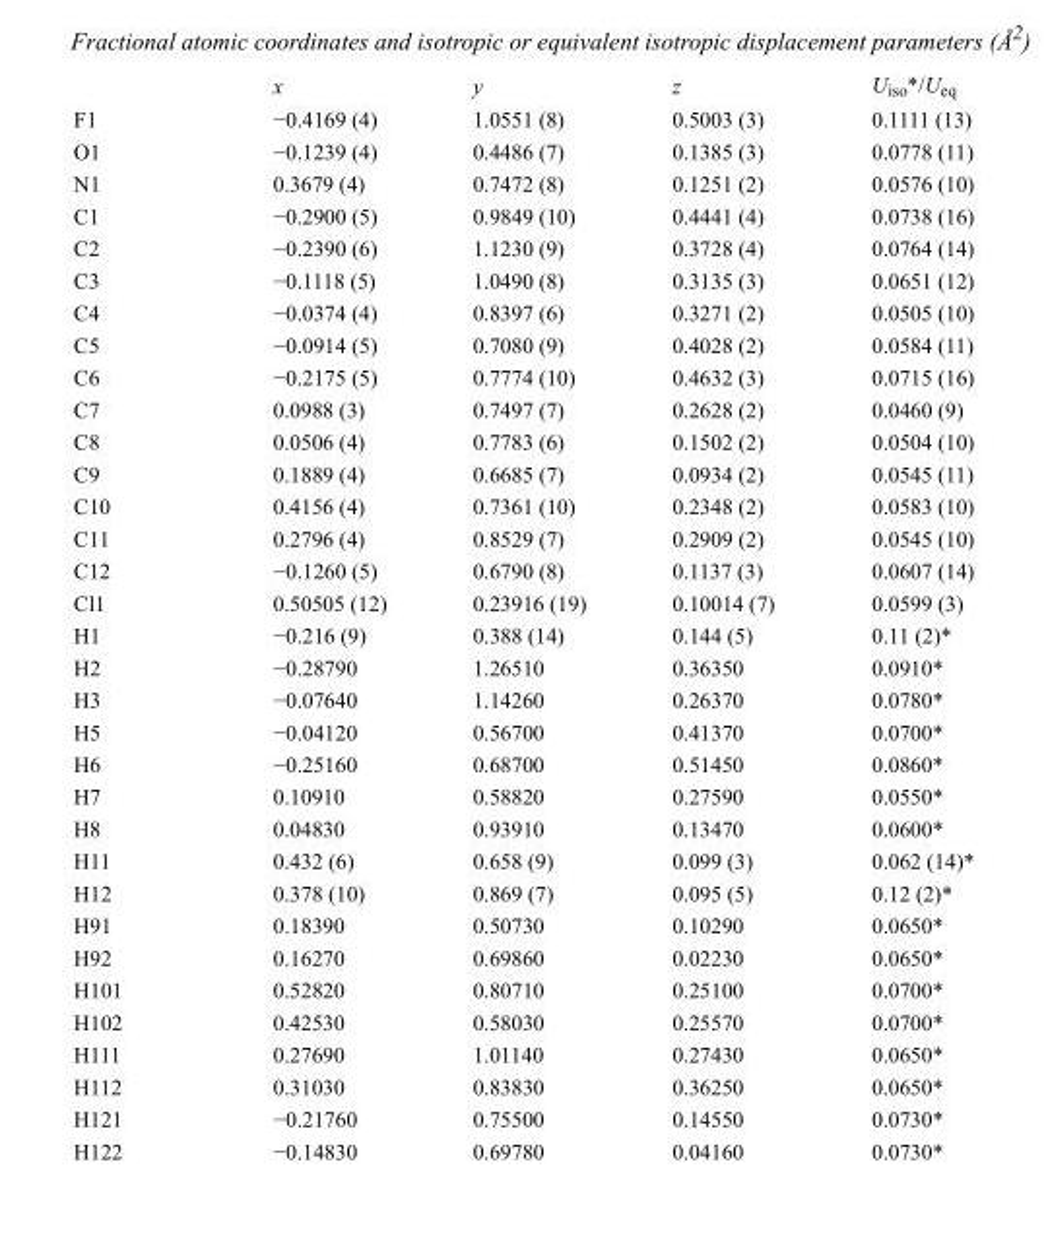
<table><thead><tr><td></td><td>x</td><td>y</td><td>z</td><td>U<sub>iso</sub>*/U<sub>eq</sub></td></tr></thead><tbody><tr><td>F1</td><td>−0.4169 (4)</td><td>1.0551 (8)</td><td>0.5003 (3)</td><td>0.1111 (13)</td></tr><tr><td>O1</td><td>−0.1239 (4)</td><td>0.4486 (7)</td><td>0.1385 (3)</td><td>0.0778 (11)</td></tr><tr><td>N1</td><td>0.3679 (4)</td><td>0.7472 (8)</td><td>0.1251 (2)</td><td>0.0576 (10)</td></tr><tr><td>C1</td><td>−0.2900 (5)</td><td>0.9849 (10)</td><td>0.4441 (4)</td><td>0.0738 (16)</td></tr><tr><td>C2</td><td>−0.2390 (6)</td><td>1.1230 (9)</td><td>0.3728 (4)</td><td>0.0764 (14)</td></tr><tr><td>C3</td><td>−0.1118 (5)</td><td>1.0490 (8)</td><td>0.3135 (3)</td><td>0.0651 (12)</td></tr><tr><td>C4</td><td>−0.0374 (4)</td><td>0.8397 (6)</td><td>0.3271 (2)</td><td>0.0505 (10)</td></tr><tr><td>C5</td><td>−0.0914 (5)</td><td>0.7080 (9)</td><td>0.4028 (2)</td><td>0.0584 (11)</td></tr><tr><td>C6</td><td>−0.2175 (5)</td><td>0.7774 (10)</td><td>0.4632 (3)</td><td>0.0715 (16)</td></tr><tr><td>C7</td><td>0.0988 (3)</td><td>0.7497 (7)</td><td>0.2628 (2)</td><td>0.0460 (9)</td></tr><tr><td>C8</td><td>0.0506 (4)</td><td>0.7783 (6)</td><td>0.1502 (2)</td><td>0.0504 (10)</td></tr><tr><td>C9</td><td>0.1889 (4)</td><td>0.6685 (7)</td><td>0.0934 (2)</td><td>0.0545 (11)</td></tr><tr><td>C10</td><td>0.4156 (4)</td><td>0.7361 (10)</td><td>0.2348 (2)</td><td>0.0583 (10)</td></tr><tr><td>C11</td><td>0.2796 (4)</td><td>0.8529 (7)</td><td>0.2909 (2)</td><td>0.0545 (10)</td></tr><tr><td>C12</td><td>−0.1260 (5)</td><td>0.6790 (8)</td><td>0.1137 (3)</td><td>0.0607 (14)</td></tr><tr><td>Cl1</td><td>0.50505 (12)</td><td>0.23916 (19)</td><td>0.10014 (7)</td><td>0.0599 (3)</td></tr><tr><td>H1</td><td>−0.216 (9)</td><td>0.388 (14)</td><td>0.144 (5)</td><td>0.11 (2)*</td></tr><tr><td>H2</td><td>−0.28790</td><td>1.26510</td><td>0.36350</td><td>0.0910*</td></tr><tr><td>H3</td><td>−0.07640</td><td>1.14260</td><td>0.26370</td><td>0.0780*</td></tr><tr><td>H5</td><td>−0.04120</td><td>0.56700</td><td>0.41370</td><td>0.0700*</td></tr><tr><td>H6</td><td>−0.25160</td><td>0.68700</td><td>0.51450</td><td>0.0860*</td></tr><tr><td>H7</td><td>0.10910</td><td>0.58820</td><td>0.27590</td><td>0.0550*</td></tr><tr><td>H8</td><td>0.04830</td><td>0.93910</td><td>0.13470</td><td>0.0600*</td></tr><tr><td>H11</td><td>0.432 (6)</td><td>0.658 (9)</td><td>0.099 (3)</td><td>0.062 (14)*</td></tr><tr><td>H12</td><td>0.378 (10)</td><td>0.869 (7)</td><td>0.095 (5)</td><td>0.12 (2)*</td></tr><tr><td>H91</td><td>0.18390</td><td>0.50730</td><td>0.10290</td><td>0.0650*</td></tr><tr><td>H92</td><td>0.16270</td><td>0.69860</td><td>0.02230</td><td>0.0650*</td></tr><tr><td>H101</td><td>0.52820</td><td>0.80710</td><td>0.25100</td><td>0.0700*</td></tr><tr><td>H102</td><td>0.42530</td><td>0.58030</td><td>0.25570</td><td>0.0700*</td></tr><tr><td>H111</td><td>0.27690</td><td>1.01140</td><td>0.27430</td><td>0.0650*</td></tr><tr><td>H112</td><td>0.31030</td><td>0.83830</td><td>0.36250</td><td>0.0650*</td></tr><tr><td>H121</td><td>−0.21760</td><td>0.75500</td><td>0.14550</td><td>0.0730*</td></tr><tr><td>H122</td><td>−0.14830</td><td>0.69780</td><td>0.04160</td><td>0.0730*</td></tr></tbody></table>